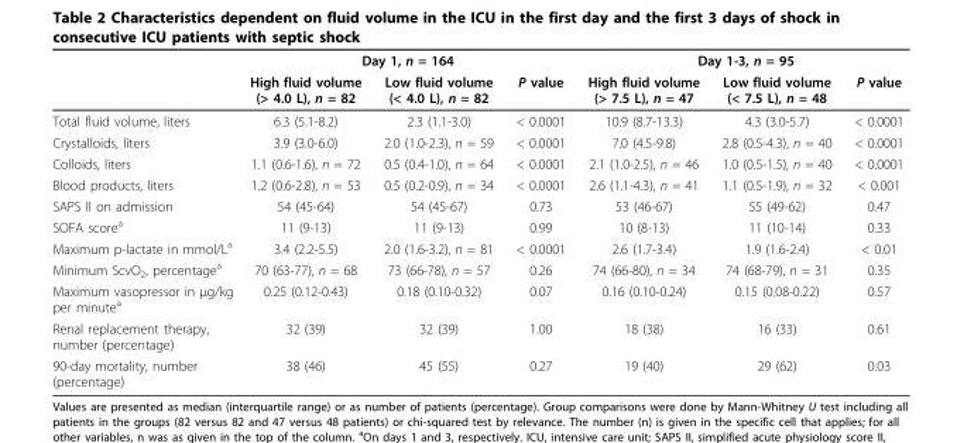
<table><thead><tr><td rowspan="2"></td><td colspan="3">Day 1, n = 164</td><td colspan="3">Day 1-3, n = 95</td></tr><tr><td>High fluid volume (&gt; 4.0 L), n = 82</td><td>Low fluid volume (&lt; 4.0 L), n = 82</td><td>P value</td><td>High fluid volume (&gt; 7.5 L), n = 47</td><td>Low fluid volume (&lt; 7.5 L), n = 48</td><td>P value</td></tr></thead><tbody><tr><td>Total fluid volume, liters</td><td>6.3 (5.1-8.2)</td><td>2.3 (1.1-3.0)</td><td>&lt; 0.0001</td><td>10.9 (8.7-13.3)</td><td>4.3 (3.0-5.7)</td><td>&lt; 0.0001</td></tr><tr><td>Crystalloids, liters</td><td>3.9 (3.0-6.0)</td><td>2.0 (1.0-2.3), n = 59</td><td>&lt; 0.0001</td><td>7.0 (4.5-9.8)</td><td>2.8 (0.5-4.3), n = 40</td><td>&lt; 0.0001</td></tr><tr><td>Colloids, liters</td><td>1.1 (0.6-1.6), n = 72</td><td>0.5 (0.4-1.0), n = 64</td><td>&lt; 0.0001</td><td>2.1 (1.0-2.5), n = 46</td><td>1.0 (0.5-1.5), n = 40</td><td>&lt; 0.0001</td></tr><tr><td>Blood products, liters</td><td>1.2 (0.6-2.8), n = 53</td><td>0.5 (0.2-0.9), n = 34</td><td>&lt; 0.0001</td><td>2.6 (1.1-4.3), n = 41</td><td>1.1 (0.5-1.9), n = 32</td><td>&lt; 0.001</td></tr><tr><td>SAPS II on admission</td><td>54 (45-64)</td><td>54 (45-67)</td><td>0.73</td><td>53 (46-67)</td><td>55 (49-62)</td><td>0.47</td></tr><tr><td>SOFA score<sup>a</sup></td><td>11 (9-13)</td><td>11 (9-13)</td><td>0.99</td><td>10 (8-13)</td><td>11 (10-14)</td><td>0.33</td></tr><tr><td>Maximum p-lactate in mmol/L<sup>a</sup></td><td>3.4 (2.2-5.5)</td><td>2.0 (1.6-3.2), n = 81</td><td>&lt; 0.0001</td><td>2.6 (1.7-3.4)</td><td>1.9 (1.6-2.4)</td><td>&lt; 0.01</td></tr><tr><td>Minimum ScvO<sub>2</sub>, percentage<sup>a</sup></td><td>70 (63-77), n = 68</td><td>73 (66-78), n = 57</td><td>0.26</td><td>74 (66-80), n = 34</td><td>74 (68-79), n = 31</td><td>0.35</td></tr><tr><td>Maximum vasopressor in μg/kg per minute<sup>a</sup></td><td>0.25 (0.12-0.43)</td><td>0.18 (0.10-0.32)</td><td>0.07</td><td>0.16 (0.10-0.24)</td><td>0.15 (0.08-0.22)</td><td>0.57</td></tr><tr><td>Renal replacement therapy, number (percentage)</td><td>32 (39)</td><td>32 (39)</td><td>1.00</td><td>18 (38)</td><td>16 (33)</td><td>0.61</td></tr><tr><td>90-day mortality, number (percentage)</td><td>38 (46)</td><td>45 (55)</td><td>0.27</td><td>19 (40)</td><td>29 (62)</td><td>0.03</td></tr></tbody></table>